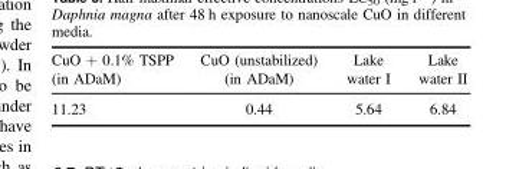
<table><thead><tr><td>CuO+0.1% TSPP (in ADaM)</td><td>CuO (unstabilized) (in ADaM)</td><td>Lake water I</td><td>Lake water II</td></tr></thead><tbody><tr><td>11.23</td><td>0.44</td><td>5.64</td><td>6.84</td></tr></tbody></table>